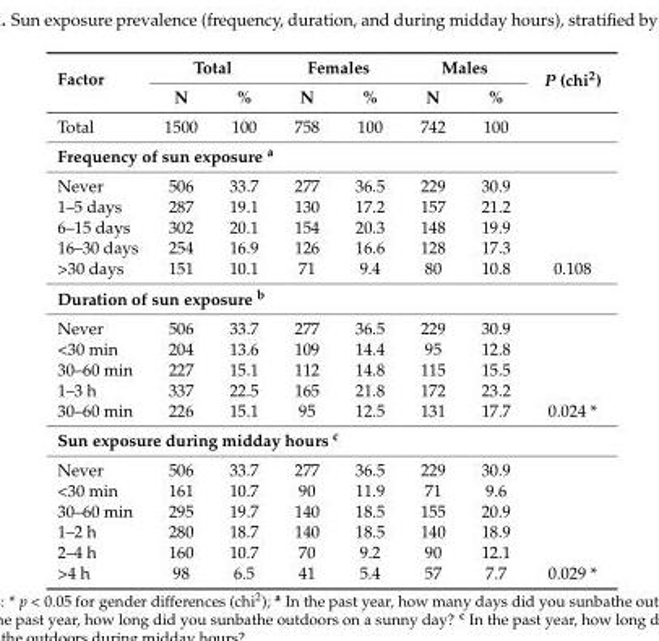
<table><thead><tr><td rowspan="2">Factor</td><td colspan="2">Total</td><td colspan="2">Females</td><td colspan="2">Males</td><td rowspan="2">P (chi<sup>2</sup>)</td></tr><tr><td>N</td><td>%</td><td>N</td><td>%</td><td>N</td><td>%</td></tr></thead><tbody><tr><td>Total</td><td>1500</td><td>100</td><td>758</td><td>100</td><td>742</td><td>100</td><td></td></tr><tr><td colspan="8">Frequency of sun exposure <sup>a</sup></td></tr><tr><td>Never</td><td>506</td><td>33.7</td><td>277</td><td>36.5</td><td>229</td><td>30.9</td><td></td></tr><tr><td>1–5 days</td><td>287</td><td>19.1</td><td>130</td><td>17.2</td><td>157</td><td>21.2</td><td></td></tr><tr><td>6–15 days</td><td>302</td><td>20.1</td><td>154</td><td>20.3</td><td>148</td><td>19.9</td><td></td></tr><tr><td>16–30 days</td><td>254</td><td>16.9</td><td>126</td><td>16.6</td><td>128</td><td>17.3</td><td></td></tr><tr><td>&gt;30 days</td><td>151</td><td>10.1</td><td>71</td><td>9.4</td><td>80</td><td>10.8</td><td>0.108</td></tr><tr><td colspan="8">Duration of sun exposure <sup>b</sup></td></tr><tr><td>Never</td><td>506</td><td>33.7</td><td>277</td><td>36.5</td><td>229</td><td>30.9</td><td></td></tr><tr><td>&lt;30 min</td><td>204</td><td>13.6</td><td>109</td><td>14.4</td><td>95</td><td>12.8</td><td></td></tr><tr><td>30–60 min</td><td>227</td><td>15.1</td><td>112</td><td>14.8</td><td>115</td><td>15.5</td><td></td></tr><tr><td>1–3 h</td><td>337</td><td>22.5</td><td>165</td><td>21.8</td><td>172</td><td>23.2</td><td></td></tr><tr><td>30–60 min</td><td>226</td><td>15.1</td><td>95</td><td>12.5</td><td>131</td><td>17.7</td><td>0.024 *</td></tr><tr><td colspan="8">Sun exposure during midday hours <sup>c</sup></td></tr><tr><td>Never</td><td>506</td><td>33.7</td><td>277</td><td>36.5</td><td>229</td><td>30.9</td><td></td></tr><tr><td>&lt;30 min</td><td>161</td><td>10.7</td><td>90</td><td>11.9</td><td>71</td><td>9.6</td><td></td></tr><tr><td>30–60 min</td><td>295</td><td>19.7</td><td>140</td><td>18.5</td><td>155</td><td>20.9</td><td></td></tr><tr><td>1–2 h</td><td>280</td><td>18.7</td><td>140</td><td>18.5</td><td>140</td><td>18.9</td><td></td></tr><tr><td>2–4 h</td><td>160</td><td>10.7</td><td>70</td><td>9.2</td><td>90</td><td>12.1</td><td></td></tr><tr><td>&gt;4 h</td><td>98</td><td>6.5</td><td>41</td><td>5.4</td><td>57</td><td>7.7</td><td>0.029 *</td></tr></tbody></table>